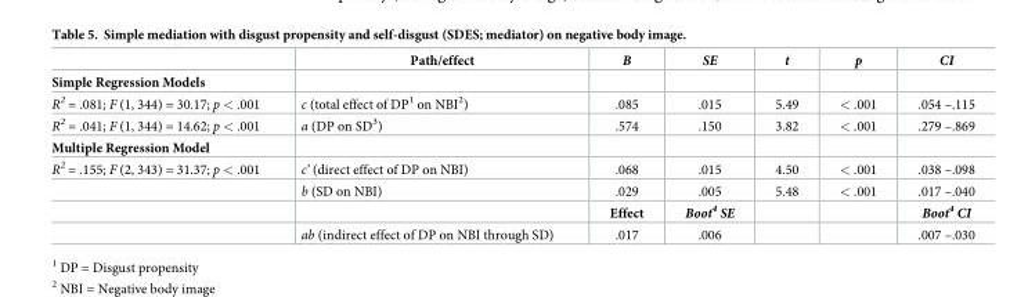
<table><thead><tr><td></td><td>Path/effect</td><td>B</td><td>SE</td><td>t</td><td>p</td><td>CI</td></tr></thead><tbody><tr><td colspan="7">Simple Regression Models</td></tr><tr><td>R<sup>2</sup> = .081; F (1, 344) = 30.17; p &lt; .001</td><td>c (total effect of DP<sup>1</sup> on NBI<sup>2</sup>)</td><td>.085</td><td>.015</td><td>5.49</td><td>&lt; .001</td><td>.054 –.115</td></tr><tr><td>R<sup>2</sup> = .041; F (1, 344) = 14.62; p &lt; .001</td><td>a (DP on SD<sup>3</sup>)</td><td>.574</td><td>.150</td><td>3.82</td><td>&lt; .001</td><td>.279 –.869</td></tr><tr><td colspan="7">Multiple Regression Model</td></tr><tr><td rowspan="4">R<sup>2</sup> = .155; F (2, 343) = 31.37; p &lt; .001</td><td>c’ (direct effect of DP on NBI)</td><td>.068</td><td>.015</td><td>4.50</td><td>&lt; .001</td><td>.038 –.098</td></tr><tr><td>b (SD on NBI)</td><td>.029</td><td>.005</td><td>5.48</td><td>&lt; .001</td><td>.017 –.040</td></tr><tr><td></td><td>Effect</td><td>Boot<sup>4</sup> SE</td><td></td><td></td><td>Boot<sup>4</sup> CI</td></tr><tr><td>ab (indirect effect of DP on NBI through SD)</td><td>.017</td><td>.006</td><td></td><td></td><td>.007 –.030</td></tr></tbody></table>